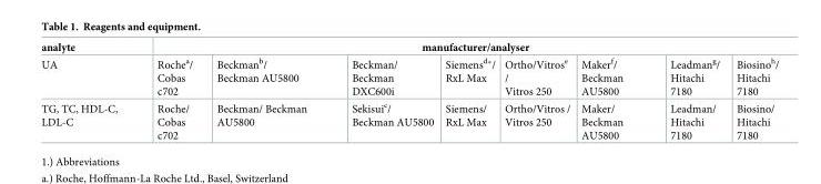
<table><thead><tr><td rowspan="2">analyte UA</td><td colspan="8">manufacturer/analyser</td></tr><tr><td>Roche<sup>a</sup>/ Cobas c702</td><td>Beckman<sup>b</sup>/ Beckman AU5800</td><td>Beckman/ Beckman DXC600i</td><td>Siemens<sup>d</sup>*/ RxL Max</td><td>Ortho/Vitros<sup>e</sup> / Vitros 250</td><td>Maker<sup>f</sup>/ Beckman AU5800</td><td>Leadman<sup>g</sup>/ Hitachi 7180</td><td>Biosino<sup>h</sup>/ Hitachi 7180</td></tr></thead><tbody><tr><td>TG, TC, HDL-C, LDL-C</td><td>Roche/ Cobas c702</td><td>Beckman/ Beckman AU5800</td><td>Sekisui<sup>c</sup>/ Beckman AU5800</td><td>Siemens/ RxL Max</td><td>Ortho/Vitros / Vitros 250</td><td>Maker/ Beckman AU5800</td><td>Leadman/ Hitachi 7180</td><td>Biosino/ Hitachi 7180</td></tr></tbody></table>